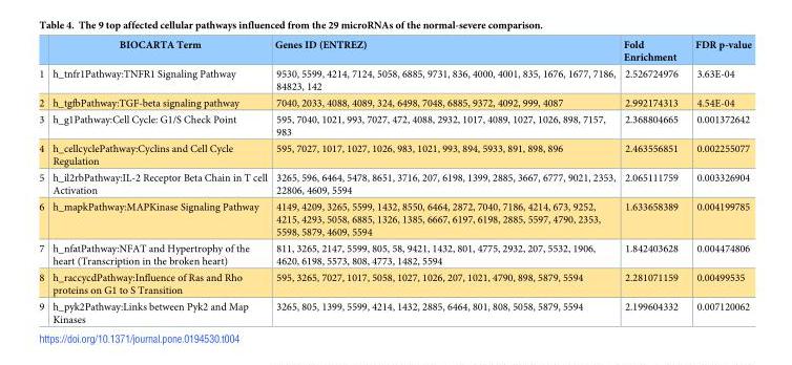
<table><thead><tr><td></td><td>BIOCARTA Term</td><td>Genes ID (ENTREZ)</td><td>Fold Enrichment</td><td>FDR p-value</td></tr></thead><tbody><tr><td>1</td><td>h_tnfr1Pathway:TNFR1 Signaling Pathway</td><td>9530, 5599, 4214, 7124, 5058, 6885, 9731, 836, 4000, 4001, 835, 1676, 1677, 7186, 84823, 142</td><td>2.526724976</td><td>3.63E-04</td></tr><tr><td>2</td><td>h_tgfbPathway:TGF-beta signaling pathway</td><td>7040, 2033, 4088, 4089, 324, 6498, 7048, 6885, 9372, 4092, 999, 4087</td><td>2.992174313</td><td>4.54E-04</td></tr><tr><td>3</td><td>h_g1Pathway:Cell Cycle: G1/S Check Point</td><td>595, 7040, 1021, 993, 7027, 472, 4088, 2932, 1017, 4089, 1027, 1026, 898, 7157, 983</td><td>2.368804665</td><td>0.001372642</td></tr><tr><td>4</td><td>h_cellcyclePathway:Cyclins and Cell Cycle Regulation</td><td>595, 7027, 1017, 1027, 1026, 983, 1021, 993, 894, 5933, 891, 898, 896</td><td>2.463556851</td><td>0.002255077</td></tr><tr><td>5</td><td>h_il2rbPathway:IL-2 Receptor Beta Chain in T cell Activation</td><td>3265, 596, 6464, 5478, 8651, 3716, 207, 6198, 1399, 2885, 3667, 6777, 9021, 2353, 22806, 4609, 5594</td><td>2.065111759</td><td>0.003326904</td></tr><tr><td>6</td><td>h_mapkPathway:MAPKinase Signaling Pathway</td><td>4149, 4209, 3265, 5599, 1432, 8550, 6464, 2872, 7040, 7186, 4214, 673, 9252, 4215, 4293, 5058, 6885, 1326, 1385, 6667, 6197, 6198, 2885, 5597, 4790, 2353, 5598, 5879, 4609, 5594</td><td>1.633658389</td><td>0.004199785</td></tr><tr><td>7</td><td>h_nfatPathway:NFAT and Hypertrophy of the heart (Transcription in the broken heart)</td><td>811, 3265, 2147, 5599, 805, 58, 9421, 1432, 801, 4775, 2932, 207, 5532, 1906, 4620, 6198, 5573, 808, 4773, 1482, 5594</td><td>1.842403628</td><td>0.004474806</td></tr><tr><td>8</td><td>h_raccycdPathway:Influence of Ras and Rho proteins on G1 to S Transition</td><td>595, 3265, 7027, 1017, 5058, 1027, 1026, 207, 1021, 4790, 898, 5879, 5594</td><td>2.281071159</td><td>0.00499535</td></tr><tr><td>9</td><td>h_pyk2Pathway:Links between Pyk2 and Map Kinases</td><td>3265, 805, 1399, 5599, 4214, 1432, 2885, 6464, 801, 808, 5058, 5879, 5594</td><td>2.199604332</td><td>0.007120062</td></tr></tbody></table>